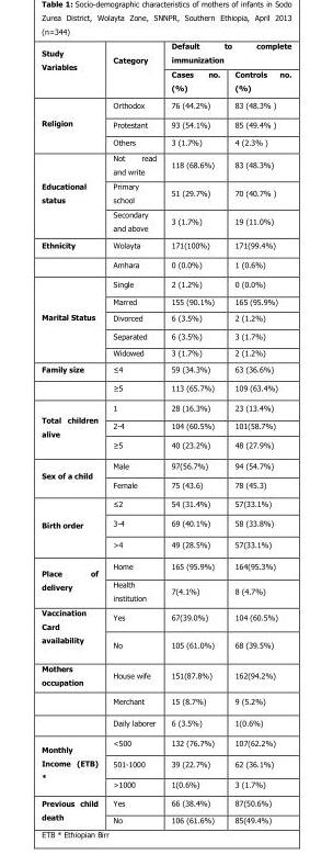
<table><thead><tr><td rowspan="2">Study Variables</td><td rowspan="2">Category</td><td colspan="2">Default to complete immunization</td></tr><tr><td>Cases no. (%)</td><td>Controls no. (%)</td></tr></thead><tbody><tr><td rowspan="3">Religion</td><td>Orthodox</td><td>76 (44.2%)</td><td>83 (48.3% )</td></tr><tr><td>Protestant</td><td>93 (54.1%)</td><td>85 (49.4% )</td></tr><tr><td>Others</td><td>3 (1.7%)</td><td>4 (2.3% )</td></tr><tr><td rowspan="3">Educational status</td><td>Not read and write</td><td>118 (68.6%)</td><td>83 (48.3%)</td></tr><tr><td>Primary school</td><td>51 (29.7%)</td><td>70 (40.7% )</td></tr><tr><td>Secondary and above</td><td>3 (1.7%)</td><td>19 (11.0%)</td></tr><tr><td rowspan="2">Ethnicity</td><td>Wolayta</td><td>171(100%)</td><td>171(99.4%)</td></tr><tr><td>Amhara</td><td>0 (0.0%)</td><td>1 (0.6%)</td></tr><tr><td rowspan="5">Marital Status</td><td>Single</td><td>2 (1.2%)</td><td>0 (0.0%)</td></tr><tr><td>Marred</td><td>155 (90.1%)</td><td>165 (95.9%)</td></tr><tr><td>Divorced</td><td>6 (3.5%)</td><td>2 (1.2%)</td></tr><tr><td>Separated</td><td>6 (3.5%)</td><td>3 (1.7%)</td></tr><tr><td>Widowed</td><td>3 (1.7%)</td><td>2 (1.2%)</td></tr><tr><td rowspan="2">Family size</td><td>≤4</td><td>59 (34.3%)</td><td>63 (36.6%)</td></tr><tr><td>≥5</td><td>113 (65.7%)</td><td>109 (63.4%)</td></tr><tr><td rowspan="3">Total children alive</td><td>1</td><td>28 (16.3%)</td><td>23 (13.4%)</td></tr><tr><td>2-4</td><td>104 (60.5%)</td><td>101(58.7%)</td></tr><tr><td>≥5</td><td>40 (23.2%)</td><td>48 (27.9%)</td></tr><tr><td rowspan="2">Sex of a child</td><td>Male</td><td>97(56.7%)</td><td>94 (54.7%)</td></tr><tr><td>Female</td><td>75 (43.6)</td><td>78 (45.3)</td></tr><tr><td rowspan="3">Birth order</td><td>≤2</td><td>54 (31.4%)</td><td>57(33.1%)</td></tr><tr><td>3-4</td><td>69 (40.1%)</td><td>58 (33.8%)</td></tr><tr><td>&gt;4</td><td>49 (28.5%)</td><td>57(33.1%)</td></tr><tr><td rowspan="2">Place of delivery</td><td>Home</td><td>165 (95.9%)</td><td>164(95.3%)</td></tr><tr><td>Health institution</td><td>7(4.1%)</td><td>8 (4.7%)</td></tr><tr><td rowspan="2">Vaccination Card availability</td><td>Yes</td><td>67(39.0%)</td><td>104 (60.5%)</td></tr><tr><td>No</td><td>105 (61.0%)</td><td>68 (39.5%)</td></tr><tr><td rowspan="3">Mothers occupation</td><td>House wife</td><td>151(87.8%)</td><td>162(94.2%)</td></tr><tr><td>Merchant</td><td>15 (8.7%)</td><td>9 (5.2%)</td></tr><tr><td>Daily laborer</td><td>6 (3.5%)</td><td>1(0.6%)</td></tr><tr><td rowspan="3">Monthly Income (ETB) *</td><td>&lt;500</td><td>132 (76.7%)</td><td>107(62.2%)</td></tr><tr><td>501-1000</td><td>39 (22.7%)</td><td>62 (36.1%)</td></tr><tr><td>&gt;1000</td><td>1(0.6%)</td><td>3 (1.7%)</td></tr><tr><td rowspan="2">Previous child death</td><td>Yes</td><td>66 (38.4%)</td><td>87(50.6%)</td></tr><tr><td>No</td><td>106 (61.6%)</td><td>85(49.4%)</td></tr></tbody></table>